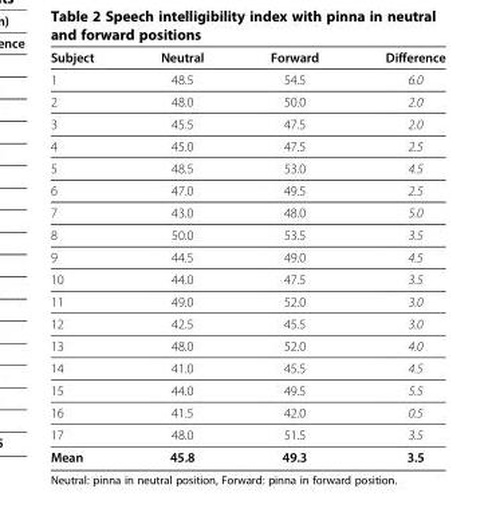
<table><thead><tr><td>Subject</td><td>Neutral</td><td>Forward</td><td>Difference</td></tr></thead><tbody><tr><td>1</td><td>48.5</td><td>54.5</td><td>6.0</td></tr><tr><td>2</td><td>48.0</td><td>50.0</td><td>2.0</td></tr><tr><td>3</td><td>45.5</td><td>47.5</td><td>2.0</td></tr><tr><td>4</td><td>45.0</td><td>47.5</td><td>2.5</td></tr><tr><td>5</td><td>48.5</td><td>53.0</td><td>4.5</td></tr><tr><td>6</td><td>47.0</td><td>49.5</td><td>2.5</td></tr><tr><td>7</td><td>43.0</td><td>48.0</td><td>5.0</td></tr><tr><td>8</td><td>50.0</td><td>53.5</td><td>3.5</td></tr><tr><td>9</td><td>44.5</td><td>49.0</td><td>4.5</td></tr><tr><td>10</td><td>44.0</td><td>47.5</td><td>3.5</td></tr><tr><td>11</td><td>49.0</td><td>52.0</td><td>3.0</td></tr><tr><td>12</td><td>42.5</td><td>45.5</td><td>3.0</td></tr><tr><td>13</td><td>48.0</td><td>52.0</td><td>4.0</td></tr><tr><td>14</td><td>41.0</td><td>45.5</td><td>4.5</td></tr><tr><td>15</td><td>44.0</td><td>49.5</td><td>5.5</td></tr><tr><td>16</td><td>41.5</td><td>42.0</td><td>0.5</td></tr><tr><td>17</td><td>48.0</td><td>51.5</td><td>3.5</td></tr><tr><td>Mean</td><td>45.8</td><td>49.3</td><td>3.5</td></tr></tbody></table>